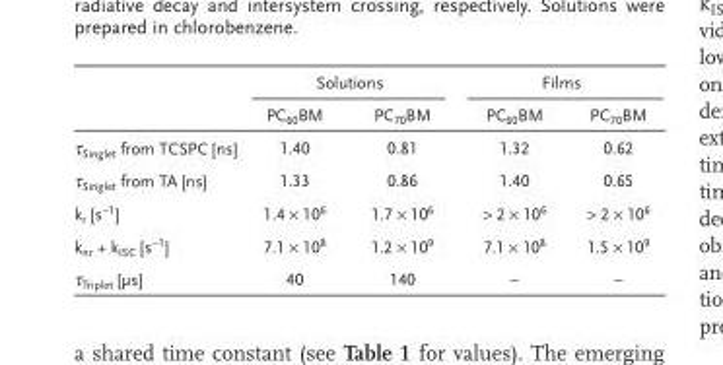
<table><thead><tr><td rowspan="2"></td><td colspan="2">Solutions</td><td colspan="2">Films</td></tr><tr><td>PC <sub>60</sub> BM</td><td>PC <sub>70</sub> BM</td><td>PC <sub>60</sub> BM</td><td>PC <sub>70</sub> BM</td></tr></thead><tbody><tr><td>τ <sub>Singlet</sub> from TCSPC [ns]</td><td>1.40</td><td>0.81</td><td>1.32</td><td>0.62</td></tr><tr><td>τ <sub>Singlet</sub> from TA [ns]</td><td>1.33</td><td>0.86</td><td>1.40</td><td>0.65</td></tr><tr><td>k <sub>r</sub> [s <sup>−1</sup> ]</td><td>1.4 × 10 <sup>6</sup></td><td>1.7 × 10 <sup>6</sup></td><td>&gt; 2 × 10 <sup>6</sup></td><td>&gt; 2 × 10 <sup>6</sup></td></tr><tr><td>k <sub>nr</sub> + k <sub>ISC</sub> [s <sup>−1</sup> ]</td><td>7.1 × 10 <sup>8</sup></td><td>1.2 × 10 <sup>9</sup></td><td>7.1 × 10 <sup>8</sup></td><td>1.5 × 10 <sup>9</sup></td></tr><tr><td>τ <sub>Triplet</sub> [µs]</td><td>40</td><td>140</td><td>–</td><td>–</td></tr></tbody></table>